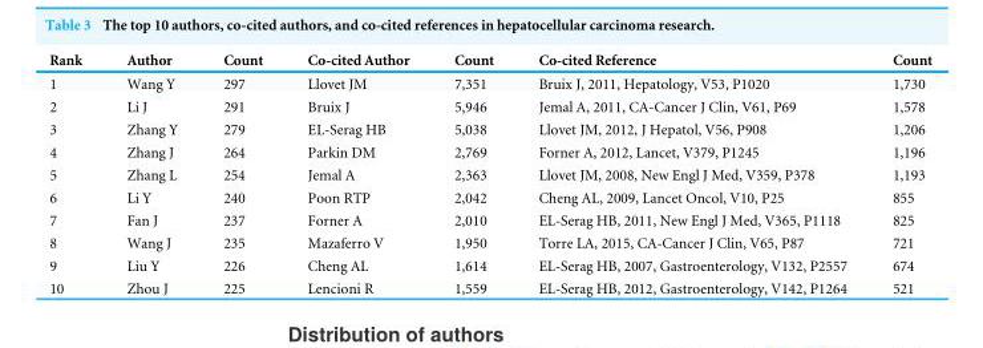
<table><thead><tr><td>Rank</td><td>Author</td><td>Count</td><td>Co-cited Author</td><td>Count</td><td>Co-cited Reference</td><td>Count</td></tr></thead><tbody><tr><td>1</td><td>Wang Y</td><td>297</td><td>Llovet JM</td><td>7,351</td><td>Bruix J, 2011, Hepatology, V53, P1020</td><td>1,730</td></tr><tr><td>2</td><td>Li J</td><td>291</td><td>Bruix J</td><td>5,946</td><td>Jemal A, 2011, CA-Cancer J Clin, V61, P69</td><td>1,578</td></tr><tr><td>3</td><td>Zhang Y</td><td>279</td><td>EL-Serag HB</td><td>5,038</td><td>Llovet JM, 2012, J Hepatol, V56, P908</td><td>1,206</td></tr><tr><td>4</td><td>Zhang J</td><td>264</td><td>Parkin DM</td><td>2,769</td><td>Forner A, 2012, Lancet, V379, P1245</td><td>1,196</td></tr><tr><td>5</td><td>Zhang L</td><td>254</td><td>Jemal A</td><td>2,363</td><td>Llovet JM, 2008, New Engl J Med, V359, P378</td><td>1,193</td></tr><tr><td>6</td><td>Li Y</td><td>240</td><td>Poon RTP</td><td>2,042</td><td>Cheng AL, 2009, Lancet Oncol, V10, P25</td><td>855</td></tr><tr><td>7</td><td>Fan J</td><td>237</td><td>Forner A</td><td>2,010</td><td>EL-Serag HB, 2011, New Engl J Med, V365, P1118</td><td>825</td></tr><tr><td>8</td><td>Wang J</td><td>235</td><td>Mazaferro V</td><td>1,950</td><td>Torre LA, 2015, CA-Cancer J Clin, V65, P87</td><td>721</td></tr><tr><td>9</td><td>Liu Y</td><td>226</td><td>Cheng AL</td><td>1,614</td><td>EL-Serag HB, 2007, Gastroenterology, V132, P2557</td><td>674</td></tr><tr><td>10</td><td>Zhou J</td><td>225</td><td>Lencioni R</td><td>1,559</td><td>EL-Serag HB, 2012, Gastroenterology, V142, P1264</td><td>521</td></tr></tbody></table>